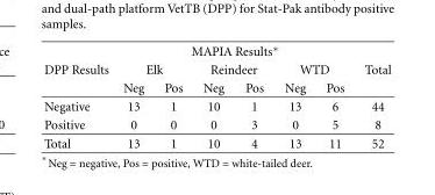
<table><thead><tr><td rowspan="3">DPP Results</td><td colspan="6">MAPIA Results∗</td><td rowspan="3">Total</td></tr><tr><td colspan="2">Elk</td><td colspan="2">Reindeer</td><td colspan="2">WTD</td></tr><tr><td>Neg</td><td>Pos</td><td>Neg</td><td>Pos</td><td>Neg</td><td>Pos</td></tr></thead><tbody><tr><td>Negative</td><td>13</td><td>1</td><td>10</td><td>1</td><td>13</td><td>6</td><td>44</td></tr><tr><td>Positive</td><td>0</td><td>0</td><td>0</td><td>3</td><td>0</td><td>5</td><td>8</td></tr><tr><td>Total</td><td>13</td><td>1</td><td>10</td><td>4</td><td>13</td><td>11</td><td>52</td></tr></tbody></table>